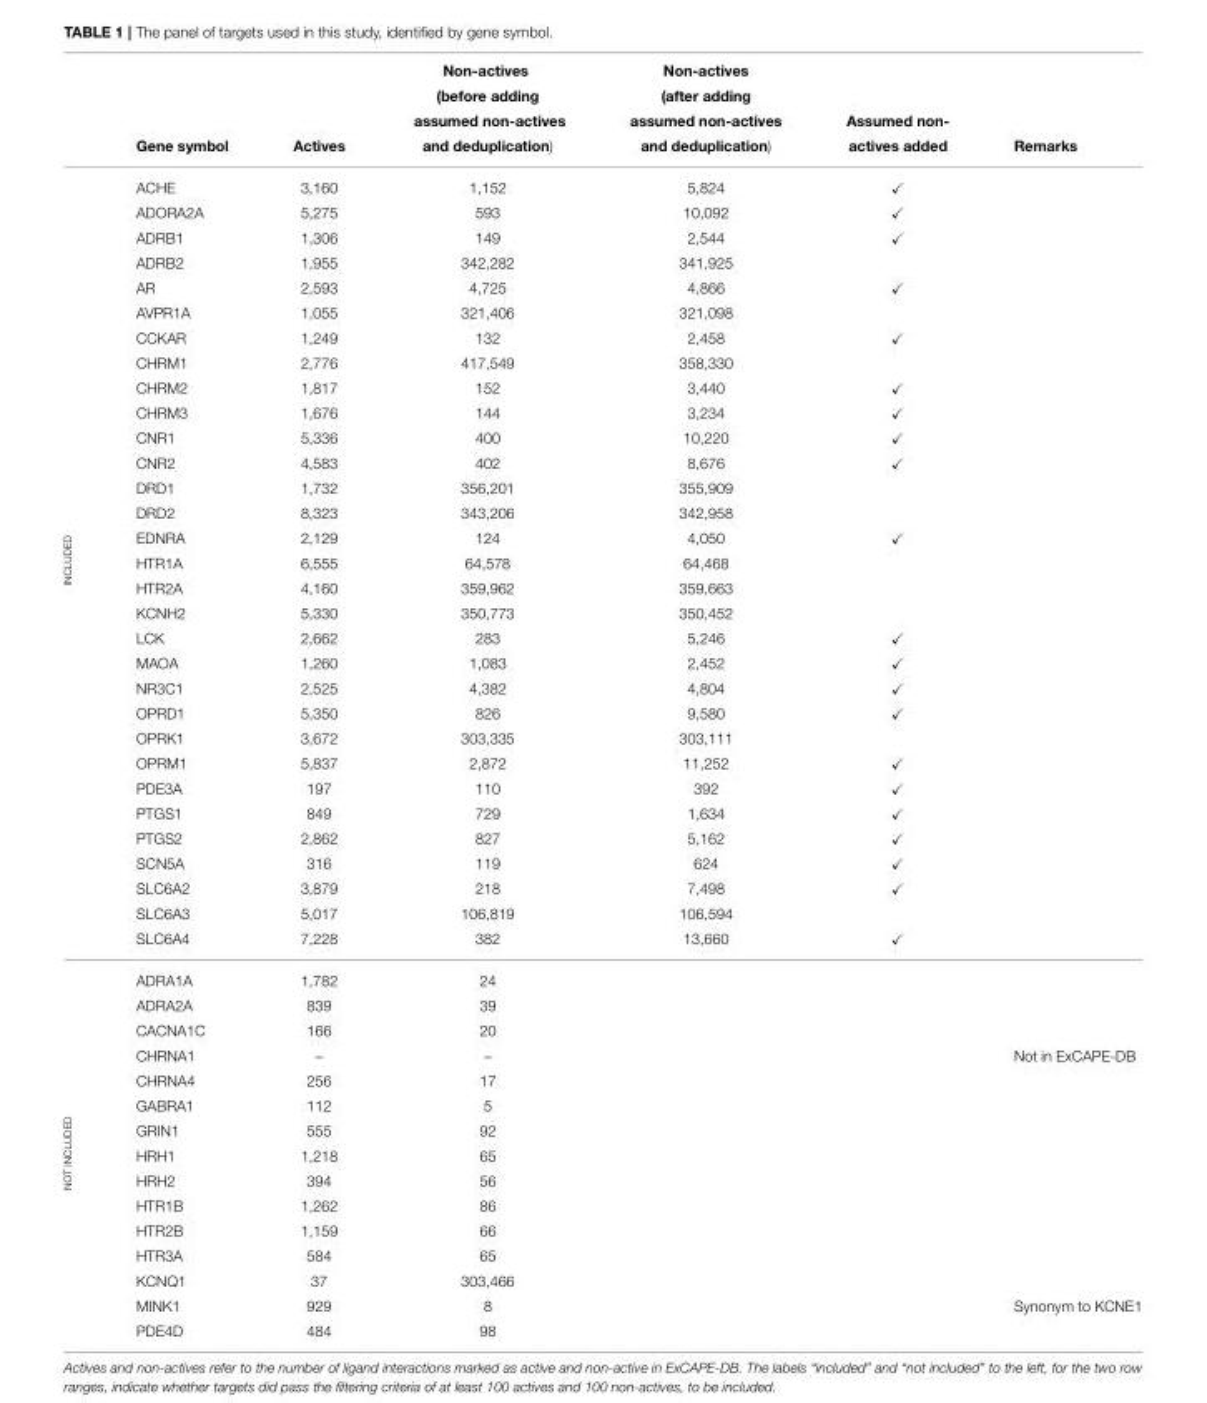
<table><thead><tr><td rowspan="4"></td><td rowspan="4">Gene symbol</td><td rowspan="4">Actives</td><td rowspan="4">Non-actives (before adding assumed non-actives and deduplication)</td><td rowspan="4">Non-actives (after adding assumed non-actives and deduplication)</td><td rowspan="4">Assumed non- actives added</td><td rowspan="4">Remarks</td></tr><tr></tr><tr></tr><tr></tr></thead><tbody><tr><td rowspan="31">INCLUDED</td><td>ACHE</td><td>3,160</td><td>1,152</td><td>5,824</td><td>✓</td><td></td></tr><tr><td>ADORA2A</td><td>5,275</td><td>593</td><td>10,092</td><td>✓</td><td></td></tr><tr><td>ADRB1</td><td>1,306</td><td>149</td><td>2,544</td><td>✓</td><td></td></tr><tr><td>ADRB2</td><td>1,955</td><td>342,282</td><td>341,925</td><td></td><td></td></tr><tr><td>AR</td><td>2,593</td><td>4,725</td><td>4,866</td><td>✓</td><td></td></tr><tr><td>AVPR1A</td><td>1,055</td><td>321,406</td><td>321,098</td><td></td><td></td></tr><tr><td>CCKAR</td><td>1,249</td><td>132</td><td>2,458</td><td>✓</td><td></td></tr><tr><td>CHRM1</td><td>2,776</td><td>417,549</td><td>358,330</td><td></td><td></td></tr><tr><td>CHRM2</td><td>1,817</td><td>152</td><td>3,440</td><td>✓</td><td></td></tr><tr><td>CHRM3</td><td>1,676</td><td>144</td><td>3,234</td><td>✓</td><td></td></tr><tr><td>CNR1</td><td>5,336</td><td>400</td><td>10,220</td><td>✓</td><td></td></tr><tr><td>CNR2</td><td>4,583</td><td>402</td><td>8,676</td><td>✓</td><td></td></tr><tr><td>DRD1</td><td>1,732</td><td>356,201</td><td>355,909</td><td></td><td></td></tr><tr><td>DRD2</td><td>8,323</td><td>343,206</td><td>342,958</td><td></td><td></td></tr><tr><td>EDNRA</td><td>2,129</td><td>124</td><td>4,050</td><td>✓</td><td></td></tr><tr><td>HTR1A</td><td>6,555</td><td>64,578</td><td>64,468</td><td></td><td></td></tr><tr><td>HTR2A</td><td>4,160</td><td>359,962</td><td>359,663</td><td></td><td></td></tr><tr><td>KCNH2</td><td>5,330</td><td>350,773</td><td>350,452</td><td></td><td></td></tr><tr><td>LCK</td><td>2,662</td><td>283</td><td>5,246</td><td>✓</td><td></td></tr><tr><td>MAOA</td><td>1,260</td><td>1,083</td><td>2,452</td><td>✓</td><td></td></tr><tr><td>NR3C1</td><td>2,525</td><td>4,382</td><td>4,804</td><td>✓</td><td></td></tr><tr><td>OPRD1</td><td>5,350</td><td>826</td><td>9,580</td><td>✓</td><td></td></tr><tr><td>OPRK1</td><td>3,672</td><td>303,335</td><td>303,111</td><td></td><td></td></tr><tr><td>OPRM1</td><td>5,837</td><td>2,872</td><td>11,252</td><td>✓</td><td></td></tr><tr><td>PDE3A</td><td>197</td><td>110</td><td>392</td><td>✓</td><td></td></tr><tr><td>PTGS1</td><td>849</td><td>729</td><td>1,634</td><td>✓</td><td></td></tr><tr><td>PTGS2</td><td>2,862</td><td>827</td><td>5,162</td><td>✓</td><td></td></tr><tr><td>SCN5A</td><td>316</td><td>119</td><td>624</td><td>✓</td><td></td></tr><tr><td>SLC6A2</td><td>3,879</td><td>218</td><td>7,498</td><td>✓</td><td></td></tr><tr><td>SLC6A3</td><td>5,017</td><td>106,819</td><td>106,594</td><td></td><td></td></tr><tr><td>SLC6A4</td><td>7,228</td><td>382</td><td>13,660</td><td>✓</td><td></td></tr><tr><td rowspan="15">NOT INCLUDED</td><td>ADRA1A</td><td>1,782</td><td>24</td><td></td><td></td><td></td></tr><tr><td>ADRA2A</td><td>839</td><td>39</td><td></td><td></td><td></td></tr><tr><td>CACNA1C</td><td>166</td><td>20</td><td></td><td></td><td></td></tr><tr><td>CHRNA1</td><td>–</td><td>–</td><td></td><td></td><td>Not in ExCAPE-DB</td></tr><tr><td>CHRNA4</td><td>256</td><td>17</td><td></td><td></td><td></td></tr><tr><td>GABRA1</td><td>112</td><td>5</td><td></td><td></td><td></td></tr><tr><td>GRIN1</td><td>555</td><td>92</td><td></td><td></td><td></td></tr><tr><td>HRH1</td><td>1,218</td><td>65</td><td></td><td></td><td></td></tr><tr><td>HRH2</td><td>394</td><td>56</td><td></td><td></td><td></td></tr><tr><td>HTR1B</td><td>1,262</td><td>86</td><td></td><td></td><td></td></tr><tr><td>HTR2B</td><td>1,159</td><td>66</td><td></td><td></td><td></td></tr><tr><td>HTR3A</td><td>584</td><td>65</td><td></td><td></td><td></td></tr><tr><td>KCNQ1</td><td>37</td><td>303,466</td><td></td><td></td><td></td></tr><tr><td>MINK1</td><td>929</td><td>8</td><td></td><td></td><td>Synonym to KCNE1</td></tr><tr><td>PDE4D</td><td>484</td><td>98</td><td></td><td></td><td></td></tr></tbody></table>